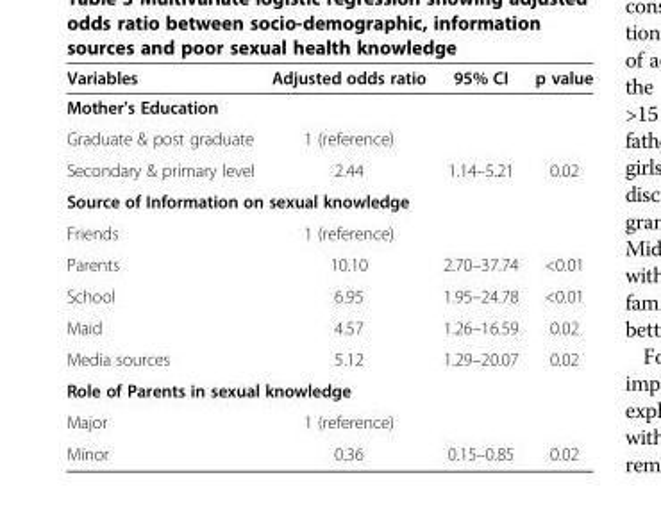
<table><thead><tr><td>Variables</td><td>Adjusted odds ratio</td><td>95% CI</td><td>p value</td></tr></thead><tbody><tr><td colspan="4">Mother’s Education</td></tr><tr><td>Graduate &amp; post graduate</td><td>1 (reference)</td><td></td><td></td></tr><tr><td>Secondary &amp; primary level</td><td>2.44</td><td>1.14–5.21</td><td>0.02</td></tr><tr><td colspan="4">Source of Information on sexual knowledge</td></tr><tr><td>Friends</td><td>1 (reference)</td><td></td><td></td></tr><tr><td>Parents</td><td>10.10</td><td>2.70–37.74</td><td>&lt;0.01</td></tr><tr><td>School</td><td>6.95</td><td>1.95–24.78</td><td>&lt;0.01</td></tr><tr><td>Maid</td><td>4.57</td><td>1.26–16.59</td><td>0.02</td></tr><tr><td>Media sources</td><td>5.12</td><td>1.29–20.07</td><td>0.02</td></tr><tr><td colspan="4">Role of Parents in sexual knowledge</td></tr><tr><td>Major</td><td>1 (reference)</td><td></td><td></td></tr><tr><td>Minor</td><td>0.36</td><td>0.15–0.85</td><td>0.02</td></tr></tbody></table>